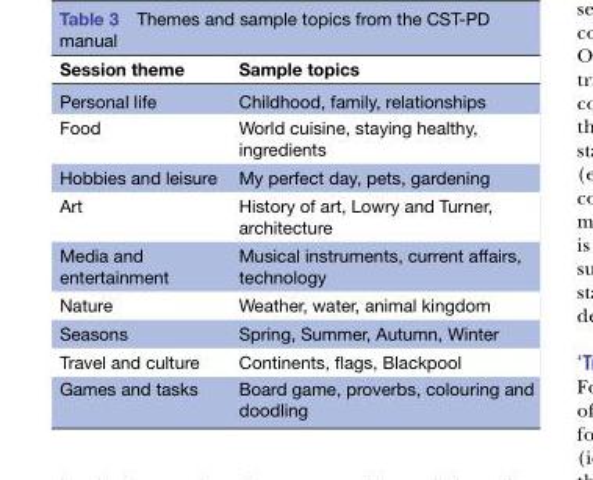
<table><thead><tr><td>Session theme</td><td>Sample topics</td></tr></thead><tbody><tr><td>Personal life</td><td>Childhood, family, relationships</td></tr><tr><td>Food</td><td>World cuisine, staying healthy, ingredients</td></tr><tr><td>Hobbies and leisure</td><td>My perfect day, pets, gardening</td></tr><tr><td>Art</td><td>History of art, Lowry and Turner, architecture</td></tr><tr><td>Media and entertainment</td><td>Musical instruments, current affairs, technology</td></tr><tr><td>Nature</td><td>Weather, water, animal kingdom</td></tr><tr><td>Seasons</td><td>Spring, Summer, Autumn, Winter</td></tr><tr><td>Travel and culture</td><td>Continents, flags, Blackpool</td></tr><tr><td>Games and tasks</td><td>Board game, proverbs, colouring and doodling</td></tr></tbody></table>